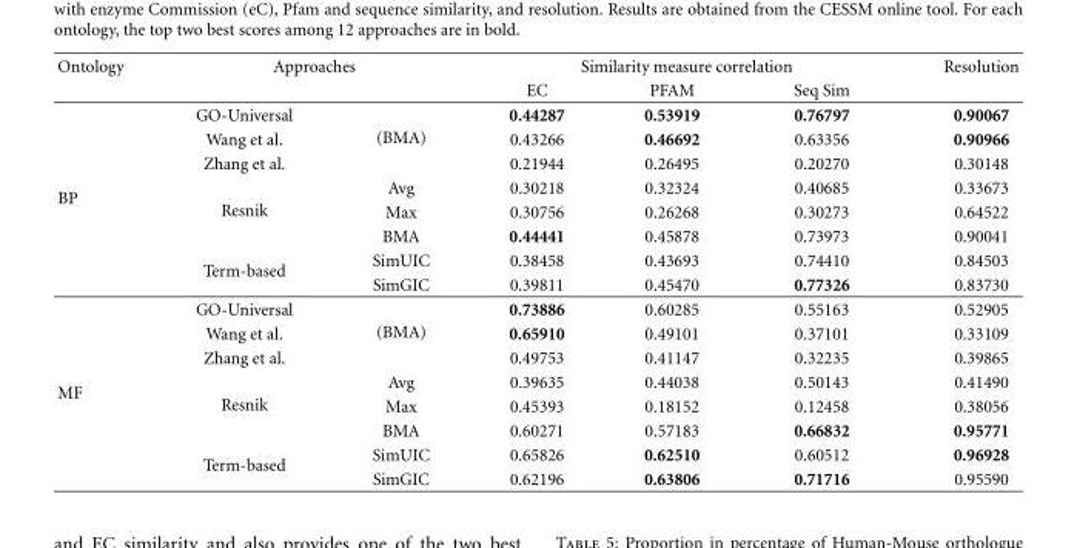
<table><thead><tr><td rowspan="2">Ontology</td><td colspan="2">Approaches</td><td colspan="3">Similarity measure correlation</td><td rowspan="2">Resolution</td></tr><tr><td></td><td></td><td>EC</td><td>PFAM</td><td>Seq Sim</td></tr></thead><tbody><tr><td rowspan="8">BP</td><td>GO-Universal</td><td rowspan="3">(BMA)</td><td>0.44287</td><td>0.53919</td><td>0.76797</td><td>0.90067</td></tr><tr><td>Wang et al.</td><td>0.43266</td><td>0.46692</td><td>0.63356</td><td>0.90966</td></tr><tr><td>Zhang et al.</td><td>0.21944</td><td>0.26495</td><td>0.20270</td><td>0.30148</td></tr><tr><td rowspan="3">Resnik</td><td>Avg</td><td>0.30218</td><td>0.32324</td><td>0.40685</td><td>0.33673</td></tr><tr><td>Max</td><td>0.30756</td><td>0.26268</td><td>0.30273</td><td>0.64522</td></tr><tr><td>BMA</td><td>0.44441</td><td>0.45878</td><td>0.73973</td><td>0.90041</td></tr><tr><td rowspan="2">Term-based</td><td>SimUIC</td><td>0.38458</td><td>0.43693</td><td>0.74410</td><td>0.84503</td></tr><tr><td>SimGIC</td><td>0.39811</td><td>0.45470</td><td>0.77326</td><td>0.83730</td></tr><tr><td rowspan="8">MF</td><td>GO-Universal</td><td rowspan="3">(BMA)</td><td>0.73886</td><td>0.60285</td><td>0.55163</td><td>0.52905</td></tr><tr><td>Wang et al.</td><td>0.65910</td><td>0.49101</td><td>0.37101</td><td>0.33109</td></tr><tr><td>Zhang et al.</td><td>0.49753</td><td>0.41147</td><td>0.32235</td><td>0.39865</td></tr><tr><td rowspan="3">Resnik</td><td>Avg</td><td>0.39635</td><td>0.44038</td><td>0.50143</td><td>0.41490</td></tr><tr><td>Max</td><td>0.45393</td><td>0.18152</td><td>0.12458</td><td>0.38056</td></tr><tr><td>BMA</td><td>0.60271</td><td>0.57183</td><td>0.66832</td><td>0.95771</td></tr><tr><td rowspan="2">Term-based</td><td>SimUIC</td><td>0.65826</td><td>0.62510</td><td>0.60512</td><td>0.96928</td></tr><tr><td>SimGIC</td><td>0.62196</td><td>0.63806</td><td>0.71716</td><td>0.95590</td></tr></tbody></table>